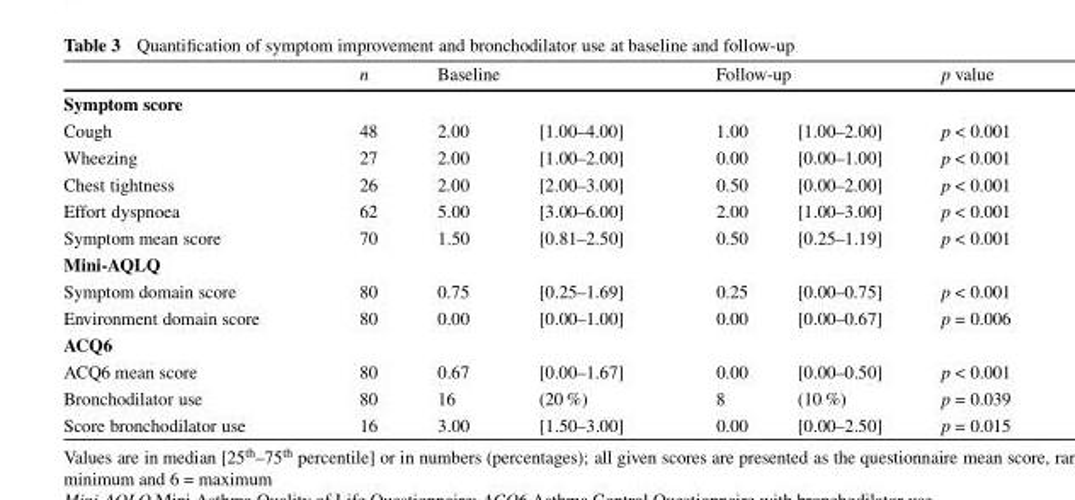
<table><thead><tr><td></td><td>n</td><td colspan="2">Baseline</td><td colspan="2">Follow-up</td><td>p value</td></tr><tr><td colspan="7">Symptom score</td></tr><tr><td>Cough</td><td>48</td><td>2.00</td><td>[1.00–4.00]</td><td>1.00</td><td>[1.00–2.00]</td><td>p &lt; 0.001</td></tr></thead><tbody><tr><td>Wheezing</td><td>27</td><td>2.00</td><td>[1.00–2.00]</td><td>0.00</td><td>[0.00–1.00]</td><td>p &lt; 0.001</td></tr><tr><td>Chest tightness</td><td>26</td><td>2.00</td><td>[2.00–3.00]</td><td>0.50</td><td>[0.00–2.00]</td><td>p &lt; 0.001</td></tr><tr><td>Effort dyspnoea</td><td>62</td><td>5.00</td><td>[3.00–6.00]</td><td>2.00</td><td>[1.00–3.00]</td><td>p &lt; 0.001</td></tr><tr><td>Symptom mean score</td><td>70</td><td>1.50</td><td>[0.81–2.50]</td><td>0.50</td><td>[0.25–1.19]</td><td>p &lt; 0.001</td></tr><tr><td colspan="7">Mini-AQLQ</td></tr><tr><td>Symptom domain score</td><td>80</td><td>0.75</td><td>[0.25–1.69]</td><td>0.25</td><td>[0.00–0.75]</td><td>p &lt; 0.001</td></tr><tr><td>Environment domain score</td><td>80</td><td>0.00</td><td>[0.00–1.00]</td><td>0.00</td><td>[0.00–0.67]</td><td>p = 0.006</td></tr><tr><td colspan="7">ACQ6</td></tr><tr><td>ACQ6 mean score</td><td>80</td><td>0.67</td><td>[0.00–1.67]</td><td>0.00</td><td>[0.00–0.50]</td><td>p &lt; 0.001</td></tr><tr><td>Bronchodilator use</td><td>80</td><td>16</td><td>(20 %)</td><td>8</td><td>(10 %)</td><td>p = 0.039</td></tr><tr><td>Score bronchodilator use</td><td>16</td><td>3.00</td><td>[1.50–3.00]</td><td>0.00</td><td>[0.00–2.50]</td><td>p = 0.015</td></tr></tbody></table>